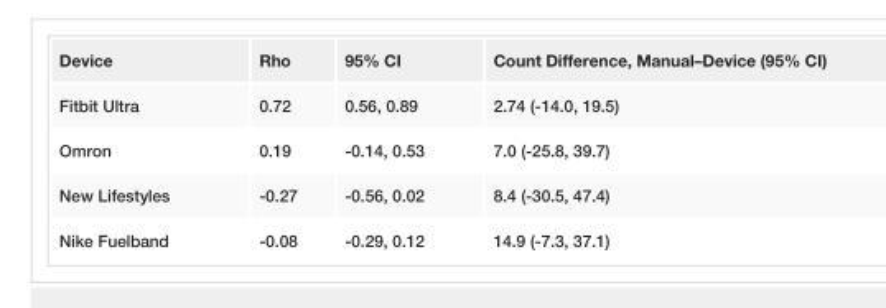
<table><tbody><tr><td>Device</td><td>Rho</td><td>95% CI</td><td>Count Difference, Manual–Device (95% CI)</td></tr><tr><td>Fitbit Ultra</td><td>0.72</td><td>0.56, 0.89</td><td>2.74 (-14.0, 19.5)</td></tr><tr><td>Omron</td><td>0.19</td><td>-0.14, 0.53</td><td>7.0 (-25.8, 39.7)</td></tr><tr><td>New Lifestyles</td><td>-0.27</td><td>-0.56, 0.02</td><td>8.4 (-30.5, 47.4)</td></tr><tr><td>Nike Fuelband</td><td>-0.08</td><td>-0.29, 0.12</td><td>14.9 (-7.3, 37.1)</td></tr></tbody></table>